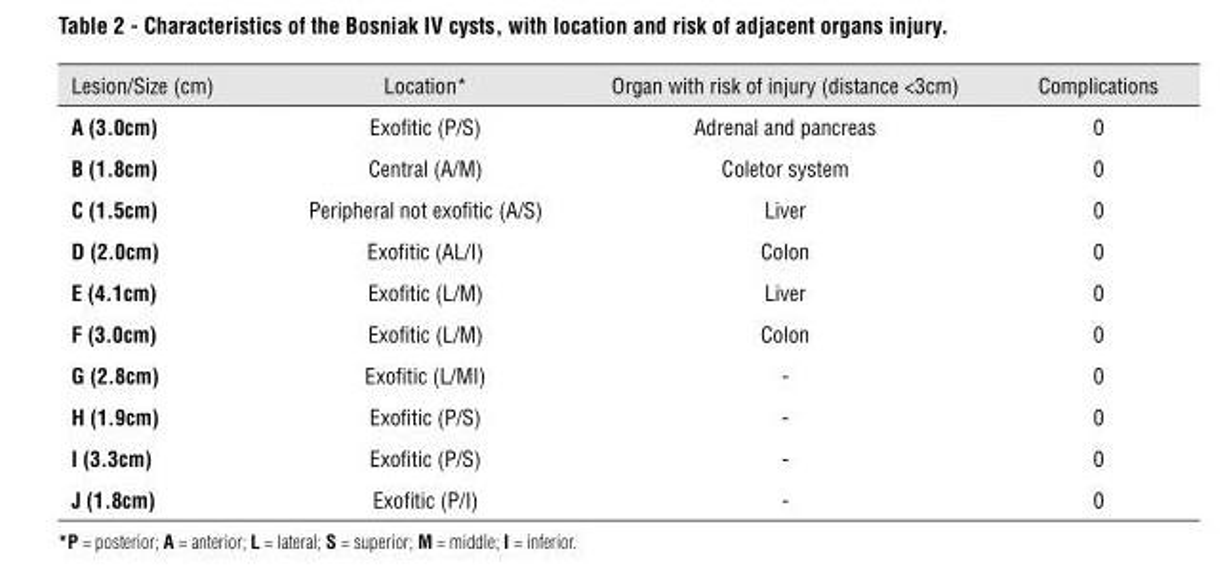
<table><thead><tr><td>Lesion/Size (cm)</td><td>Location*</td><td>Organ with risk of injury (distance &lt;3cm)</td><td>Complications</td></tr></thead><tbody><tr><td>A (3.0cm)</td><td>Exofitic (P/S)</td><td>Adrenal and pancreas</td><td>0</td></tr><tr><td>B (1.8cm)</td><td>Central (A/M)</td><td>Coletor system</td><td>0</td></tr><tr><td>C (1.5cm)</td><td>Peripheral not exofitic (A/S)</td><td>Liver</td><td>0</td></tr><tr><td>D (2.0cm)</td><td>Exofitic (AL/I)</td><td>Colon</td><td>0</td></tr><tr><td>E (4.1cm)</td><td>Exofitic (L/M)</td><td>Liver</td><td>0</td></tr><tr><td>f (3.0cm)</td><td>Exofitic (L/M)</td><td>Colon</td><td>0</td></tr><tr><td>g (2.8cm)</td><td>Exofitic (L/MI)</td><td>-</td><td>0</td></tr><tr><td>h (1.9cm)</td><td>Exofitic (P/S)</td><td>-</td><td>0</td></tr><tr><td>I (3.3cm)</td><td>Exofitic (P/S)</td><td>-</td><td>0</td></tr><tr><td>J (1.8cm)</td><td>Exofitic (P/I)</td><td>-</td><td>0</td></tr></tbody></table>